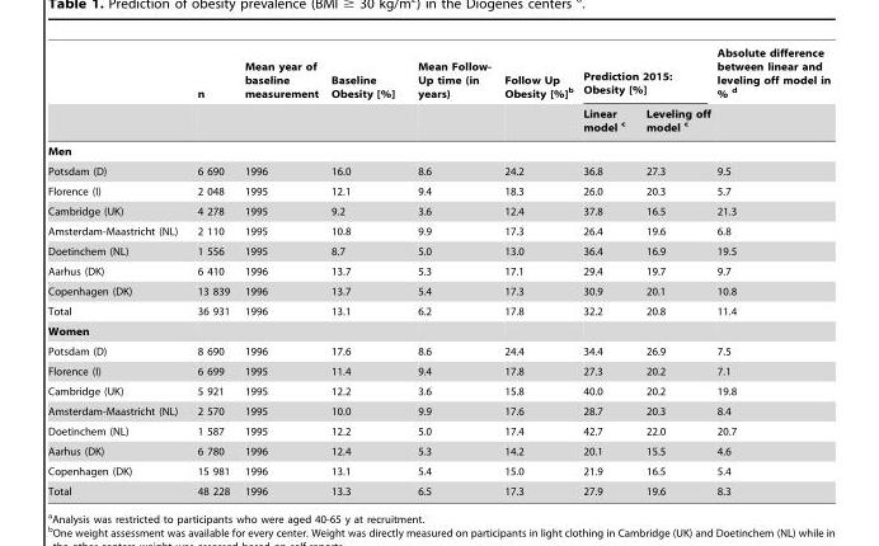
<table><thead><tr><td rowspan="2"></td><td rowspan="2">n</td><td rowspan="2">Mean year of baseline measurement</td><td rowspan="2">Baseline Obesity [%]</td><td rowspan="2">Mean Follow- Up time (in years)</td><td rowspan="2">Follow Up Obesity [%]<sup>b</sup></td><td colspan="2">Prediction 2015: Obesity [%]</td><td rowspan="2">Absolute difference between linear and leveling off model in % d</td></tr><tr><td>Linear model c</td><td>Leveling off model c</td></tr></thead><tbody><tr><td colspan="9">Men</td></tr><tr><td>Potsdam (D)</td><td>6 690</td><td>1996</td><td>16.0</td><td>8.6</td><td>24.2</td><td>36.8</td><td>27.3</td><td>9.5</td></tr><tr><td>Florence (I)</td><td>2 048</td><td>1995</td><td>12.1</td><td>9.4</td><td>18.3</td><td>26.0</td><td>20.3</td><td>5.7</td></tr><tr><td>Cambridge (UK)</td><td>4 278</td><td>1995</td><td>9.2</td><td>3.6</td><td>12.4</td><td>37.8</td><td>16.5</td><td>21.3</td></tr><tr><td>Amsterdam-Maastricht (NL)</td><td>2 110</td><td>1995</td><td>10.8</td><td>9.9</td><td>17.3</td><td>26.4</td><td>19.6</td><td>6.8</td></tr><tr><td>Doetinchem (NL)</td><td>1 556</td><td>1995</td><td>8.7</td><td>5.0</td><td>13.0</td><td>36.4</td><td>16.9</td><td>19.5</td></tr><tr><td>Aarhus (DK)</td><td>6 410</td><td>1996</td><td>13.7</td><td>5.3</td><td>17.1</td><td>29.4</td><td>19.7</td><td>9.7</td></tr><tr><td>Copenhagen (DK)</td><td>13 839</td><td>1996</td><td>13.7</td><td>5.4</td><td>17.3</td><td>30.9</td><td>20.1</td><td>10.8</td></tr><tr><td>Total</td><td>36 931</td><td>1996</td><td>13.1</td><td>6.2</td><td>17.8</td><td>32.2</td><td>20.8</td><td>11.4</td></tr><tr><td colspan="9">Women</td></tr><tr><td>Potsdam (D)</td><td>8 690</td><td>1996</td><td>17.6</td><td>8.6</td><td>24.4</td><td>34.4</td><td>26.9</td><td>7.5</td></tr><tr><td>Florence (I)</td><td>6 699</td><td>1995</td><td>11.4</td><td>9.4</td><td>17.8</td><td>27.3</td><td>20.2</td><td>7.1</td></tr><tr><td>Cambridge (UK)</td><td>5 921</td><td>1995</td><td>12.2</td><td>3.6</td><td>15.8</td><td>40.0</td><td>20.2</td><td>19.8</td></tr><tr><td>Amsterdam-Maastricht (NL)</td><td>2 570</td><td>1995</td><td>10.0</td><td>9.9</td><td>17.6</td><td>28.7</td><td>20.3</td><td>8.4</td></tr><tr><td>Doetinchem (NL)</td><td>1 587</td><td>1995</td><td>12.2</td><td>5.0</td><td>17.4</td><td>42.7</td><td>22.0</td><td>20.7</td></tr><tr><td>Aarhus (DK)</td><td>6 780</td><td>1996</td><td>12.4</td><td>5.3</td><td>14.2</td><td>20.1</td><td>15.5</td><td>4.6</td></tr><tr><td>Copenhagen (DK)</td><td>15 981</td><td>1996</td><td>13.1</td><td>5.4</td><td>15.0</td><td>21.9</td><td>16.5</td><td>5.4</td></tr><tr><td>Total</td><td>48 228</td><td>1996</td><td>13.3</td><td>6.5</td><td>17.3</td><td>27.9</td><td>19.6</td><td>8.3</td></tr></tbody></table>